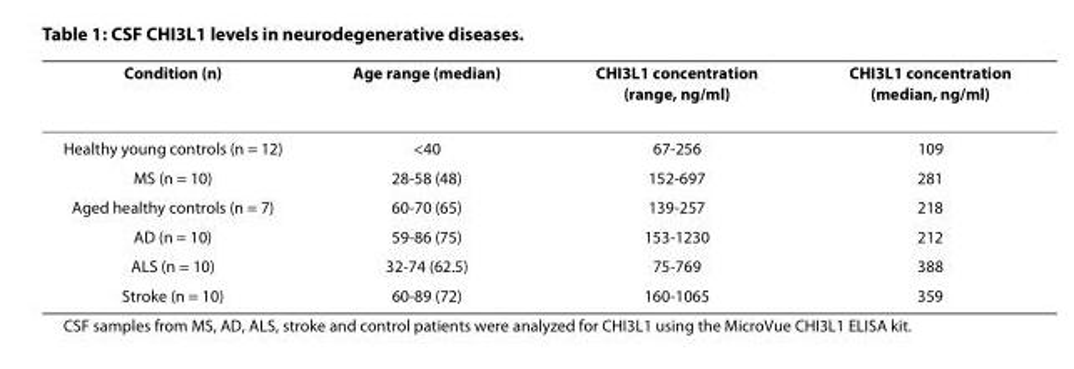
<table><thead><tr><td>Condition (n)</td><td>Age range (median)</td><td>CHI3L1 concentration (range, ng/ml)</td><td>CHI3L1 concentration (median, ng/ml)</td></tr></thead><tbody><tr><td>Healthy young controls (n = 12)</td><td>&lt;40</td><td>67-256</td><td>109</td></tr><tr><td>MS (n = 10)</td><td>28-58 (48)</td><td>152-697</td><td>281</td></tr><tr><td>Aged healthy controls (n = 7)</td><td>60-70 (65)</td><td>139-257</td><td>218</td></tr><tr><td>AD (n = 10)</td><td>59-86 (75)</td><td>153-1230</td><td>212</td></tr><tr><td>ALS (n = 10)</td><td>32-74 (62.5)</td><td>75-769</td><td>388</td></tr><tr><td>Stroke (n = 10)</td><td>60-89 (72)</td><td>160-1065</td><td>359</td></tr></tbody></table>